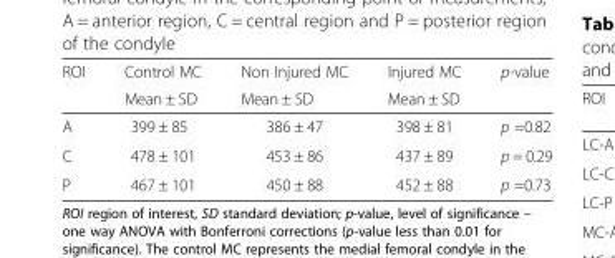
<table><thead><tr><td rowspan="2">ROI</td><td rowspan="2">Control MC Mean ± SD</td><td rowspan="2">Non Injured MC Mean ± SD</td><td rowspan="2">Injured MC Mean ± SD</td><td rowspan="2">p-value</td></tr><tr></tr></thead><tbody><tr><td>A</td><td>399 ± 85</td><td>386 ± 47</td><td>398 ± 81</td><td>p =0.82</td></tr><tr><td>C</td><td>478 ± 101</td><td>453 ± 86</td><td>437 ± 89</td><td>p = 0.29</td></tr><tr><td>P</td><td>467 ± 101</td><td>450 ± 88</td><td>452 ± 88</td><td>p =0.73</td></tr></tbody></table>